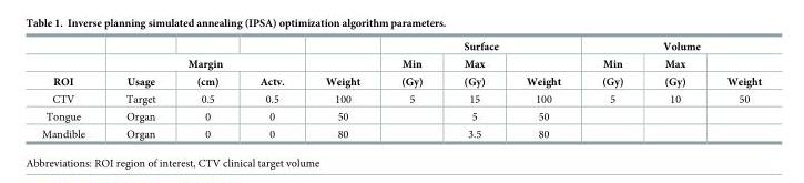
<table><thead><tr><td rowspan="3">ROI</td><td></td><td></td><td></td><td rowspan="3">Weight</td><td colspan="3">Surface</td><td colspan="3">Volume</td></tr><tr><td colspan="3">Margin</td><td rowspan="2">Min (Gy)</td><td rowspan="2">Max (Gy)</td><td rowspan="2">Weight</td><td rowspan="2">Min (Gy)</td><td rowspan="2">Max (Gy)</td><td rowspan="2">Weight</td></tr><tr><td>Usage</td><td>(cm)</td><td>Actv.</td></tr></thead><tbody><tr><td>CTV</td><td>Target</td><td>0.5</td><td>0.5</td><td>100</td><td>5</td><td>15</td><td>100</td><td>5</td><td>10</td><td>50</td></tr><tr><td>Tongue</td><td>Organ</td><td>0</td><td>0</td><td>50</td><td></td><td>5</td><td>50</td><td></td><td></td><td></td></tr><tr><td>Mandible</td><td>Organ</td><td>0</td><td>0</td><td>80</td><td></td><td>3.5</td><td>80</td><td></td><td></td><td></td></tr></tbody></table>